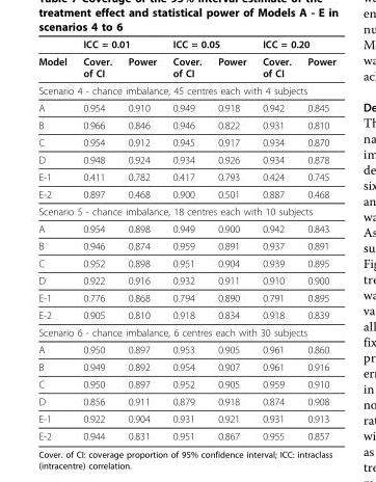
<table><thead><tr><td rowspan="2">Model</td><td colspan="2">ICC = 0.01</td><td colspan="2">ICC = 0.05</td><td colspan="2">ICC = 0.20</td></tr><tr><td>Cover. of CI</td><td>Power</td><td>Cover. of CI</td><td>Power</td><td>Cover. of CI</td><td>Power</td></tr></thead><tbody><tr><td colspan="7">Scenario 4 - chance imbalance, 45 centres each with 4 subjects</td></tr><tr><td>A</td><td>0.954</td><td>0.910</td><td>0.949</td><td>0.918</td><td>0.942</td><td>0.845</td></tr><tr><td>B</td><td>0.966</td><td>0.846</td><td>0.946</td><td>0.822</td><td>0.931</td><td>0.810</td></tr><tr><td>C</td><td>0.954</td><td>0.912</td><td>0.945</td><td>0.917</td><td>0.934</td><td>0.870</td></tr><tr><td>D</td><td>0.948</td><td>0.924</td><td>0.934</td><td>0.926</td><td>0.934</td><td>0.878</td></tr><tr><td>E-1</td><td>0.411</td><td>0.782</td><td>0.417</td><td>0.793</td><td>0.424</td><td>0.745</td></tr><tr><td>E-2</td><td>0.897</td><td>0.468</td><td>0.900</td><td>0.501</td><td>0.887</td><td>0.468</td></tr><tr><td colspan="7">Scenario 5 - chance imbalance, 18 centres each with 10 subjects</td></tr><tr><td>A</td><td>0.954</td><td>0.898</td><td>0.949</td><td>0.900</td><td>0.942</td><td>0.843</td></tr><tr><td>B</td><td>0.946</td><td>0.874</td><td>0.959</td><td>0.891</td><td>0.937</td><td>0.891</td></tr><tr><td>C</td><td>0.952</td><td>0.898</td><td>0.951</td><td>0.904</td><td>0.939</td><td>0.895</td></tr><tr><td>D</td><td>0.922</td><td>0.916</td><td>0.932</td><td>0.911</td><td>0.910</td><td>0.900</td></tr><tr><td>E-1</td><td>0.776</td><td>0.868</td><td>0.794</td><td>0.890</td><td>0.791</td><td>0.895</td></tr><tr><td>E-2</td><td>0.905</td><td>0.810</td><td>0.918</td><td>0.834</td><td>0.918</td><td>0.839</td></tr><tr><td colspan="7">Scenario 6 - chance imbalance, 6 centres each with 30 subjects</td></tr><tr><td>A</td><td>0.950</td><td>0.897</td><td>0.953</td><td>0.905</td><td>0.961</td><td>0.860</td></tr><tr><td>B</td><td>0.949</td><td>0.892</td><td>0.954</td><td>0.907</td><td>0.961</td><td>0.916</td></tr><tr><td>C</td><td>0.950</td><td>0.897</td><td>0.952</td><td>0.905</td><td>0.959</td><td>0.910</td></tr><tr><td>D</td><td>0.856</td><td>0.911</td><td>0.879</td><td>0.918</td><td>0.874</td><td>0.908</td></tr><tr><td>E-1</td><td>0.922</td><td>0.904</td><td>0.931</td><td>0.921</td><td>0.931</td><td>0.913</td></tr><tr><td>E-2</td><td>0.944</td><td>0.831</td><td>0.951</td><td>0.867</td><td>0.955</td><td>0.857</td></tr></tbody></table>